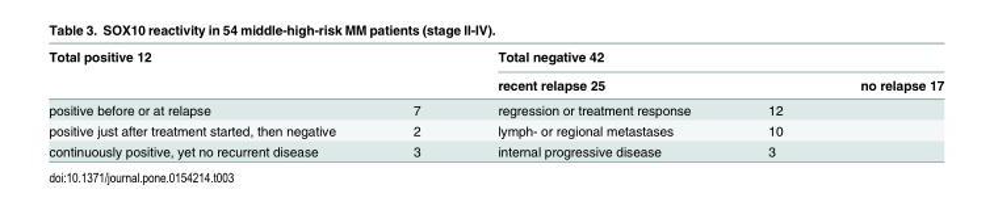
<table><thead><tr><td colspan="2">Total positive 12</td><td colspan="3">Total negative 42</td></tr><tr><td rowspan="2">positive before or at relapse</td><td rowspan="2">7</td><td colspan="2">recent relapse 25</td><td rowspan="2">no relapse 17</td></tr><tr><td>regression or treatment response</td><td>12</td></tr></thead><tbody><tr><td>positive just after treatment started, then negative</td><td>2</td><td>lymph- or regional metastases</td><td>10</td><td></td></tr><tr><td>continuously positive, yet no recurrent disease</td><td>3</td><td>internal progressive disease</td><td>3</td><td></td></tr></tbody></table>